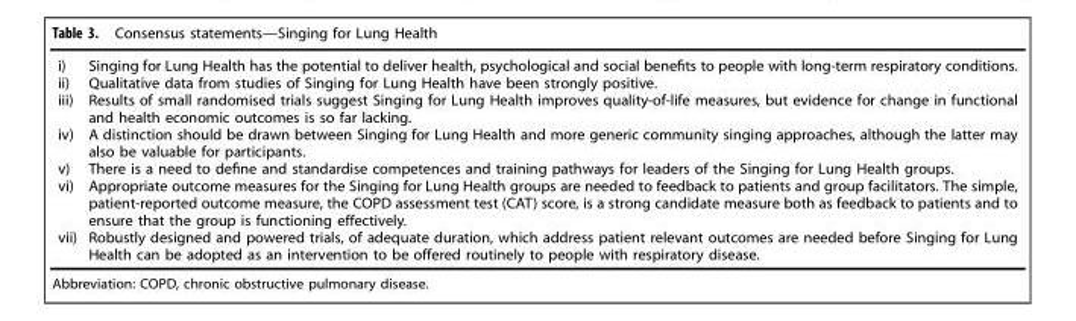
<table><tbody><tr><td>i)</td><td>Singing for Lung Health has the potential to deliver health, psychological and social benefits to people with long-term respiratory conditions.</td></tr><tr><td>ii)</td><td>Qualitative data from studies of Singing for Lung Health have been strongly positive.</td></tr><tr><td>iii)</td><td>Results of small randomised trials suggest Singing for Lung Health improves quality-of-life measures, but evidence for change in functional and health economic outcomes is so far lacking.</td></tr><tr><td>iv)</td><td>A distinction should be drawn between Singing for Lung Health and more generic community singing approaches, although the latter may also be valuable for participants.</td></tr><tr><td>v)</td><td>There is a need to define and standardise competences and training pathways for leaders of the Singing for Lung Health groups.</td></tr><tr><td>vi)</td><td>Appropriate outcome measures for the Singing for Lung Health groups are needed to feedback to patients and group facilitators. The simple, patient-reported outcome measure, the COPD assessment test (CAT) score, is a strong candidate measure both as feedback to patients and to ensure that the group is functioning effectively.</td></tr><tr><td>vii)</td><td>Robustly designed and powered trials, of adequate duration, which address patient relevant outcomes are needed before Singing for Lung Health can be adopted as an intervention to be offered routinely to people with respiratory disease.</td></tr></tbody></table>